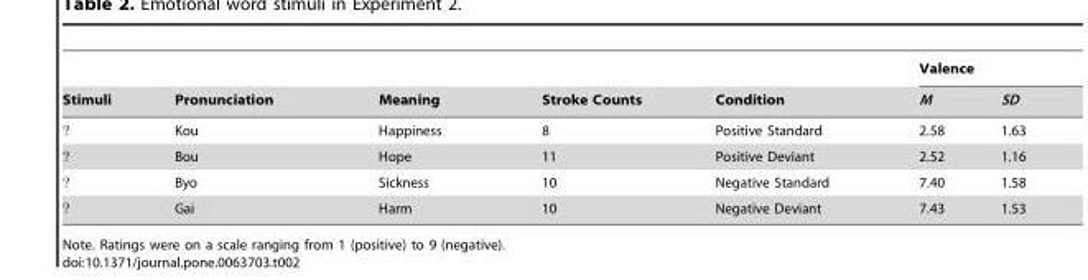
<table><thead><tr><td rowspan="2">Stimuli</td><td rowspan="2">Pronunciation</td><td rowspan="2">Meaning</td><td rowspan="2">Stroke Counts</td><td rowspan="2">Condition</td><td colspan="2">Valence</td></tr><tr><td>M</td><td>SD</td></tr></thead><tbody><tr><td>?</td><td>Kou</td><td>Happiness</td><td>8</td><td>Positive Standard</td><td>2.58</td><td>1.63</td></tr><tr><td>?</td><td>Bou</td><td>Hope</td><td>11</td><td>Positive Deviant</td><td>2.52</td><td>1.16</td></tr><tr><td>?</td><td>Byo</td><td>Sickness</td><td>10</td><td>Negative Standard</td><td>7.40</td><td>1.58</td></tr><tr><td>?</td><td>Gai</td><td>Harm</td><td>10</td><td>Negative Deviant</td><td>7.43</td><td>1.53</td></tr></tbody></table>